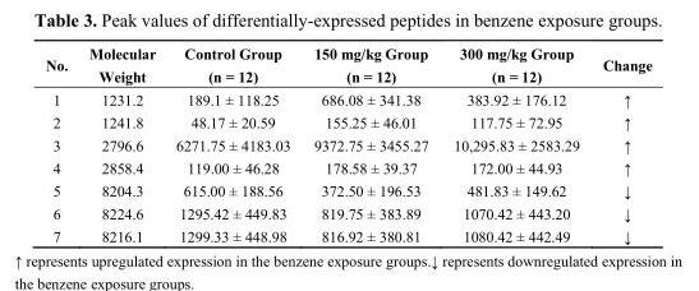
<table><thead><tr><td>No.</td><td>Molecular Weight</td><td>Control Group (n = 12)</td><td>150 mg/kg Group (n = 12)</td><td>300 mg/kg Group (n = 12)</td><td>Change</td></tr></thead><tbody><tr><td>1</td><td>1231.2</td><td>189.1 ± 118.25</td><td>686.08 ± 341.38</td><td>383.92 ± 176.12</td><td>↑</td></tr><tr><td>2</td><td>1241.8</td><td>48.17 ± 20.59</td><td>155.25 ± 46.01</td><td>117.75 ± 72.95</td><td>↑</td></tr><tr><td>3</td><td>2796.6</td><td>6271.75 ± 4183.03</td><td>9372.75 ± 3455.27</td><td>10,295.83 ± 2583.29</td><td>↑</td></tr><tr><td>4</td><td>2858.4</td><td>119.00 ± 46.28</td><td>178.58 ± 39.37</td><td>172.00 ± 44.93</td><td>↑</td></tr><tr><td>5</td><td>8204.3</td><td>615.00 ± 188.56</td><td>372.50 ± 196.53</td><td>481.83 ± 149.62</td><td>↓</td></tr><tr><td>6</td><td>8224.6</td><td>1295.42 ± 449.83</td><td>819.75 ± 383.89</td><td>1070.42 ± 443.20</td><td>↓</td></tr><tr><td>7</td><td>8216.1</td><td>1299.33 ± 448.98</td><td>816.92 ± 380.81</td><td>1080.42 ± 442.49</td><td>↓</td></tr></tbody></table>